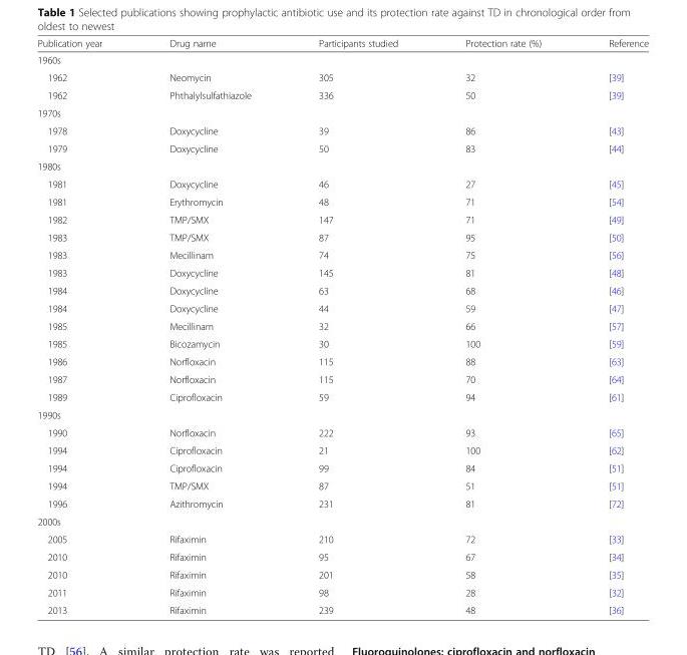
<table><thead><tr><td>Publication year</td><td>Drug name</td><td>Participants studied</td><td>Protection rate (%)</td><td>Reference</td></tr></thead><tbody><tr><td colspan="5">1960s</td></tr><tr><td>1962</td><td>Neomycin</td><td>305</td><td>32</td><td>[39]</td></tr><tr><td>1962</td><td>Phthalylsulfathiazole</td><td>336</td><td>50</td><td>[39]</td></tr><tr><td colspan="5">1970s</td></tr><tr><td>1978</td><td>Doxycycline</td><td>39</td><td>86</td><td>[43]</td></tr><tr><td>1979</td><td>Doxycycline</td><td>50</td><td>83</td><td>[44]</td></tr><tr><td colspan="5">1980s</td></tr><tr><td>1981</td><td>Doxycycline</td><td>46</td><td>27</td><td>[45]</td></tr><tr><td>1981</td><td>Erythromycin</td><td>48</td><td>71</td><td>[54]</td></tr><tr><td>1982</td><td>TMP/SMX</td><td>147</td><td>71</td><td>[49]</td></tr><tr><td>1983</td><td>TMP/SMX</td><td>87</td><td>95</td><td>[50]</td></tr><tr><td>1983</td><td>Mecillinam</td><td>74</td><td>75</td><td>[56]</td></tr><tr><td>1983</td><td>Doxycycline</td><td>145</td><td>81</td><td>[48]</td></tr><tr><td>1984</td><td>Doxycycline</td><td>63</td><td>68</td><td>[46]</td></tr><tr><td>1984</td><td>Doxycycline</td><td>44</td><td>59</td><td>[47]</td></tr><tr><td>1985</td><td>Mecillinam</td><td>32</td><td>66</td><td>[57]</td></tr><tr><td>1985</td><td>Bicozamycin</td><td>30</td><td>100</td><td>[59]</td></tr><tr><td>1986</td><td>Norfloxacin</td><td>115</td><td>88</td><td>[63]</td></tr><tr><td>1987</td><td>Norfloxacin</td><td>115</td><td>70</td><td>[64]</td></tr><tr><td>1989</td><td>Ciprofloxacin</td><td>59</td><td>94</td><td>[61]</td></tr><tr><td colspan="5">1990s</td></tr><tr><td>1990</td><td>Norfloxacin</td><td>222</td><td>93</td><td>[65]</td></tr><tr><td>1994</td><td>Ciprofloxacin</td><td>21</td><td>100</td><td>[62]</td></tr><tr><td>1994</td><td>Ciprofloxacin</td><td>99</td><td>84</td><td>[51]</td></tr><tr><td>1994</td><td>TMP/SMX</td><td>87</td><td>51</td><td>[51]</td></tr><tr><td>1996</td><td>Azithromycin</td><td>231</td><td>81</td><td>[72]</td></tr><tr><td colspan="5">2000s</td></tr><tr><td>2005</td><td>Rifaximin</td><td>210</td><td>72</td><td>[33]</td></tr><tr><td>2010</td><td>Rifaximin</td><td>95</td><td>67</td><td>[34]</td></tr><tr><td>2010</td><td>Rifaximin</td><td>201</td><td>58</td><td>[35]</td></tr><tr><td>2011</td><td>Rifaximin</td><td>98</td><td>28</td><td>[32]</td></tr><tr><td>2013</td><td>Rifaximin</td><td>239</td><td>48</td><td>[36]</td></tr></tbody></table>